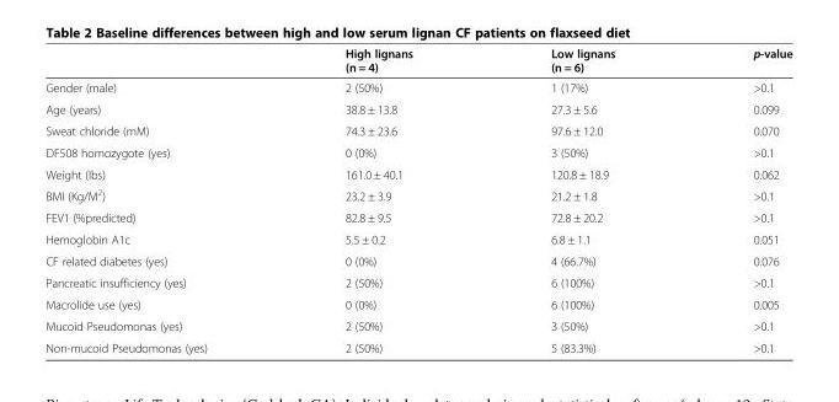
<table><thead><tr><td></td><td>High lignans (n = 4)</td><td>Low lignans (n = 6)</td><td>p-value</td></tr></thead><tbody><tr><td>Gender (male)</td><td>2 (50%)</td><td>1 (17%)</td><td>&gt;0.1</td></tr><tr><td>Age (years)</td><td>38.8 ± 13.8</td><td>27.3 ± 5.6</td><td>0.099</td></tr><tr><td>Sweat chloride (mM)</td><td>74.3 ± 23.6</td><td>97.6 ± 12.0</td><td>0.070</td></tr><tr><td>DF508 homozygote (yes)</td><td>0 (0%)</td><td>3 (50%)</td><td>&gt;0.1</td></tr><tr><td>Weight (lbs)</td><td>161.0 ± 40.1</td><td>120.8 ± 18.9</td><td>0.062</td></tr><tr><td>BMI (Kg/M<sup>2</sup>)</td><td>23.2 ± 3.9</td><td>21.2 ± 1.8</td><td>&gt;0.1</td></tr><tr><td>FEV1 (%predicted)</td><td>82.8 ± 9.5</td><td>72.8 ± 20.2</td><td>&gt;0.1</td></tr><tr><td>Hemoglobin A1c</td><td>5.5 ± 0.2</td><td>6.8 ± 1.1</td><td>0.051</td></tr><tr><td>CF related diabetes (yes)</td><td>0 (0%)</td><td>4 (66.7%)</td><td>0.076</td></tr><tr><td>Pancreatic insufficiency (yes)</td><td>2 (50%)</td><td>6 (100%)</td><td>&gt;0.1</td></tr><tr><td>Macrolide use (yes)</td><td>0 (0%)</td><td>6 (100%)</td><td>0.005</td></tr><tr><td>Mucoid Pseudomonas (yes)</td><td>2 (50%)</td><td>3 (50%)</td><td>&gt;0.1</td></tr><tr><td>Non-mucoid Pseudomonas (yes)</td><td>2 (50%)</td><td>5 (83.3%)</td><td>&gt;0.1</td></tr></tbody></table>